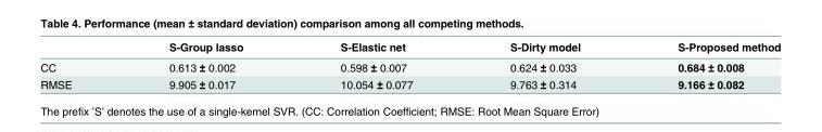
<table><thead><tr><td></td><td>S-Group lasso</td><td>S-Elastic net</td><td>S-Dirty model</td><td>S-Proposed method</td></tr></thead><tbody><tr><td>CC</td><td>0.613 ± 0.002</td><td>0.598 ± 0.007</td><td>0.624 ± 0.033</td><td>0.684 ± 0.008</td></tr><tr><td>RMSE</td><td>9.905 ± 0.017</td><td>10.054 ± 0.077</td><td>9.763 ± 0.314</td><td>9.166 ± 0.082</td></tr></tbody></table>